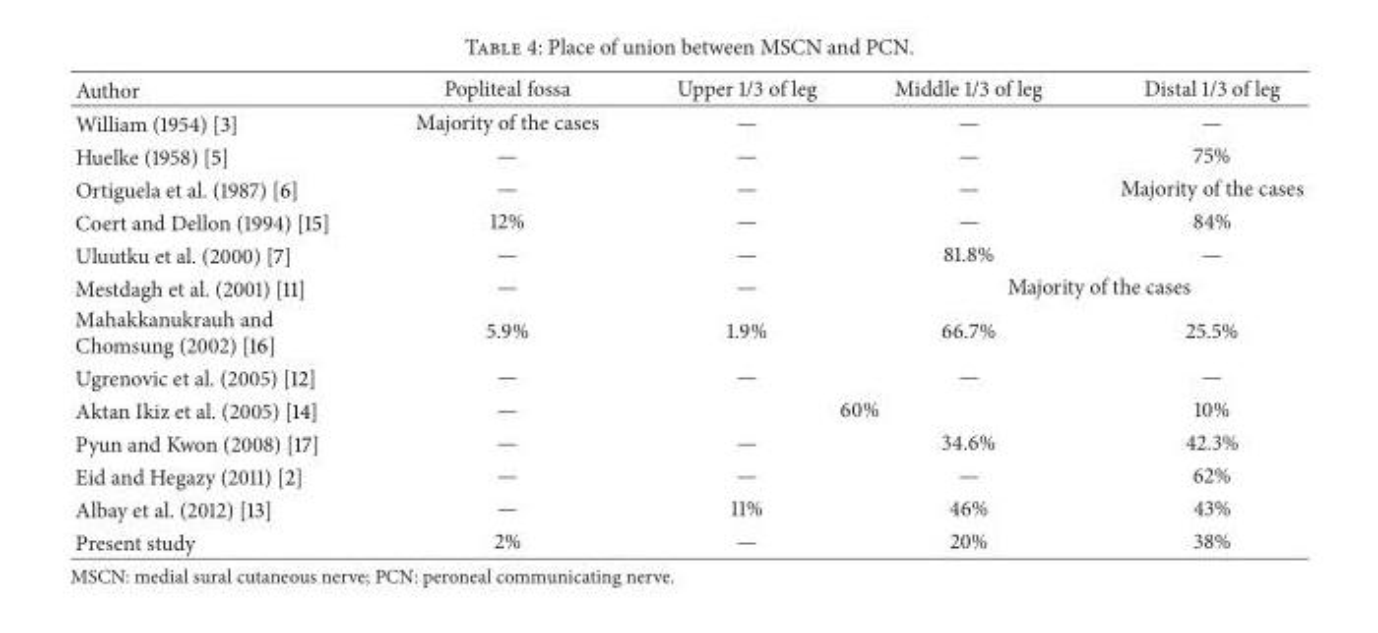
<table><thead><tr><td>Author</td><td>Popliteal fossa</td><td>Upper 1/3 of leg</td><td>Middle 1/3 of leg</td><td>Distal 1/3 of leg</td></tr></thead><tbody><tr><td>William (1954) [3]</td><td>Majority of the cases</td><td>—</td><td>—</td><td>—</td></tr><tr><td>Huelke (1958) [5]</td><td>—</td><td>—</td><td>—</td><td>75%</td></tr><tr><td>Ortiguela et al. (1987) [6]</td><td>—</td><td>—</td><td>—</td><td>Majority of the cases</td></tr><tr><td>Coert and Dellon (1994) [15]</td><td>12%</td><td>—</td><td>—</td><td>84%</td></tr><tr><td>Uluutku et al. (2000) [7]</td><td>—</td><td>—</td><td>81.8%</td><td>—</td></tr><tr><td>Mestdagh et al. (2001) [11]</td><td>—</td><td>—</td><td colspan="2">Majority of the cases</td></tr><tr><td>Mahakkanukrauh and Chomsung (2002) [16]</td><td>5.9%</td><td>1.9%</td><td>66.7%</td><td>25.5%</td></tr><tr><td>Ugrenovic et al. (2005) [12]</td><td>—</td><td>—</td><td>—</td><td>—</td></tr><tr><td>Aktan Ikiz et al. (2005) [14]</td><td>—</td><td colspan="2">60%</td><td>10%</td></tr><tr><td>Pyun and Kwon (2008) [17]</td><td>—</td><td>—</td><td>34.6%</td><td>42.3%</td></tr><tr><td>Eid and Hegazy (2011) [2]</td><td>—</td><td>—</td><td>—</td><td>62%</td></tr><tr><td>Albay et al. (2012) [13]</td><td>—</td><td>11%</td><td>46%</td><td>43%</td></tr><tr><td>Present study</td><td>2%</td><td>—</td><td>20%</td><td>38%</td></tr></tbody></table>